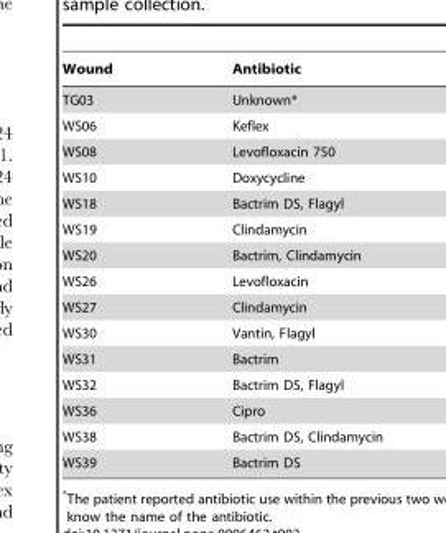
<table><thead><tr><td>Wound</td><td>Antibiotic</td></tr></thead><tbody><tr><td>TG03</td><td>Unknown*</td></tr><tr><td>WS06</td><td>Keflex</td></tr><tr><td>WS08</td><td>Levofloxacin 750</td></tr><tr><td>WS10</td><td>Doxycycline</td></tr><tr><td>WS18</td><td>Bactrim DS, Flagyl</td></tr><tr><td>WS19</td><td>Clindamycin</td></tr><tr><td>WS20</td><td>Bactrim, Clindamycin</td></tr><tr><td>WS26</td><td>Levofloxacin</td></tr><tr><td>WS27</td><td>Clindamycin</td></tr><tr><td>WS30</td><td>Vantin, Flagyl</td></tr><tr><td>WS31</td><td>Bactrim</td></tr><tr><td>WS32</td><td>Bactrim DS, Flagyl</td></tr><tr><td>WS36</td><td>Cipro</td></tr><tr><td>WS38</td><td>Bactrim DS, Clindamycin</td></tr><tr><td>WS39</td><td>Bactrim DS</td></tr></tbody></table>